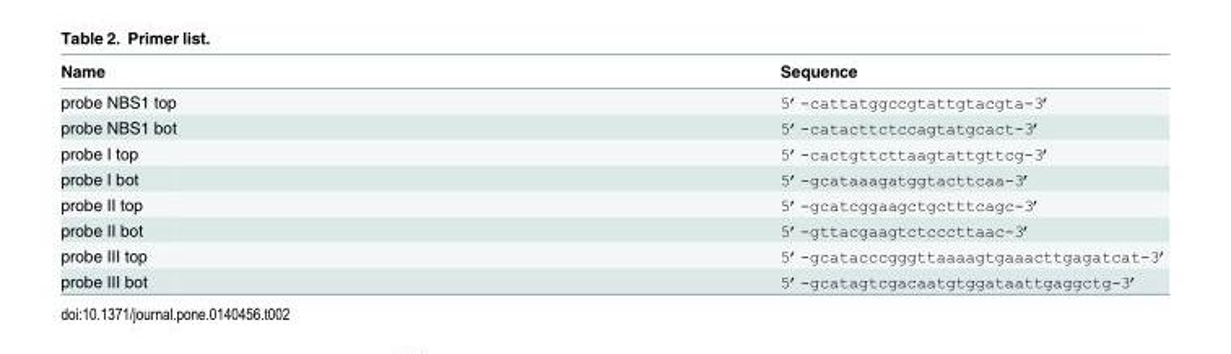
<table><thead><tr><td>Name</td><td>Sequence</td></tr></thead><tbody><tr><td>probe NBS1 top</td><td>5’-cattatggccgtattgtacgta-3’</td></tr><tr><td>probe NBS1 bot</td><td>5’-catacttctccagtatgcact-3’</td></tr><tr><td>probe I top</td><td>5’-cactgttcttaagtattgttcg-3’</td></tr><tr><td>probe I bot</td><td>5’-gcataaagatggtacttcaa-3’</td></tr><tr><td>probe II top</td><td>5’-gcatcggaagctgctttcagc-3’</td></tr><tr><td>probe II bot</td><td>5’-gttacgaagtctcccttaac-3’</td></tr><tr><td>probe III top</td><td>5’-gcatacccgggttaaaagtgaaacttgagatcat-3’</td></tr><tr><td>probe III bot</td><td>5’-gcatagtcgacaatgtggataattgaggctg-3’</td></tr></tbody></table>